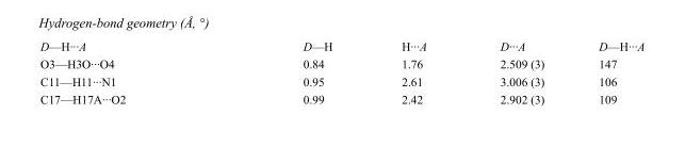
<table><tbody><tr><td>D—H···A</td><td>D—H</td><td>H···A</td><td>D···A</td><td>D—H···A</td></tr><tr><td>O3—H3O···O4</td><td>0.84</td><td>1.76</td><td>2.509 (3)</td><td>147</td></tr><tr><td>C11—H11···N1</td><td>0.95</td><td>2.61</td><td>3.006 (3)</td><td>106</td></tr><tr><td>C17—H17A···O2</td><td>0.99</td><td>2.42</td><td>2.902 (3)</td><td>109</td></tr></tbody></table>